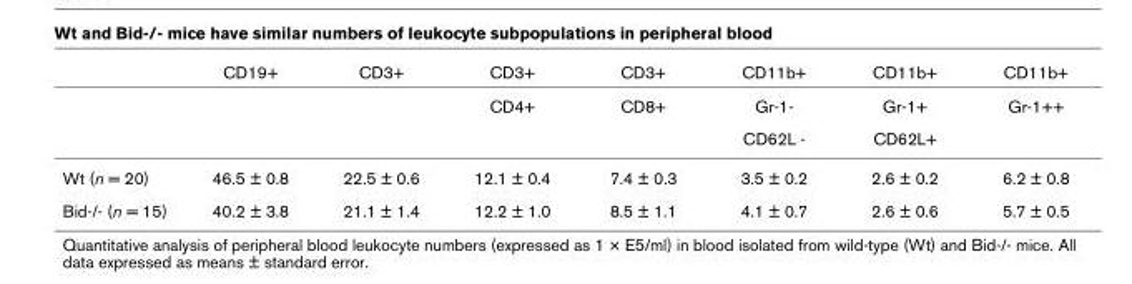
<table><thead><tr><td></td><td>CD19+</td><td>CD3+</td><td>CD3+</td><td>CD3+</td><td>CD11b+</td><td>CD11b+</td><td>CD11b+</td></tr></thead><tbody><tr><td></td><td></td><td></td><td>CD4+</td><td>CD8+</td><td>Gr-1-</td><td>Gr-1+</td><td>Gr-1++</td></tr><tr><td></td><td></td><td></td><td></td><td></td><td>CD62L -</td><td>CD62L+</td><td></td></tr><tr><td>Wt (n = 20)</td><td>46.5 ± 0.8</td><td>22.5 ± 0.6</td><td>12.1 ± 0.4</td><td>7.4 ± 0.3</td><td>3.5 ± 0.2</td><td>2.6 ± 0.2</td><td>6.2 ± 0.8</td></tr><tr><td>Bid-/- (n = 15)</td><td>40.2 ± 3.8</td><td>21.1 ± 1.4</td><td>12.2 ± 1.0</td><td>8.5 ± 1.1</td><td>4.1 ± 0.7</td><td>2.6 ± 0.6</td><td>5.7 ± 0.5</td></tr></tbody></table>